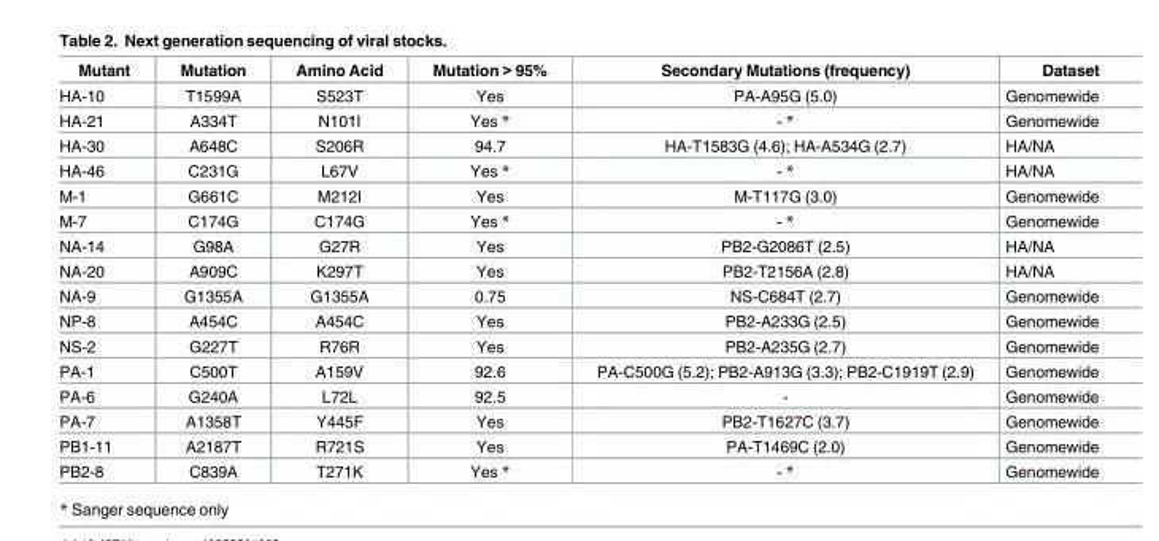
<table><thead><tr><td>Mutant</td><td>Mutation</td><td>Amino Acid</td><td>Mutation &gt; 95%</td><td>Secondary Mutations (frequency)</td><td>Dataset</td></tr></thead><tbody><tr><td>HA-10</td><td>T1599A</td><td>S523T</td><td>Yes</td><td>PA-A95G (5.0)</td><td>Genomewide</td></tr><tr><td>HA-21</td><td>A334T</td><td>N101I</td><td>Yes *</td><td>- *</td><td>Genomewide</td></tr><tr><td>HA-30</td><td>A648C</td><td>S206R</td><td>94.7</td><td>HA-T1583G (4.6); HA-A534G (2.7)</td><td>HA/NA</td></tr><tr><td>HA-46</td><td>C231G</td><td>L67V</td><td>Yes *</td><td>- *</td><td>HA/NA</td></tr><tr><td>M-1</td><td>G661C</td><td>M212I</td><td>Yes</td><td>M-T117G (3.0)</td><td>Genomewide</td></tr><tr><td>M-7</td><td>C174G</td><td>C174G</td><td>Yes *</td><td>- *</td><td>Genomewide</td></tr><tr><td>NA-14</td><td>G98A</td><td>G27R</td><td>Yes</td><td>PB2-G2086T (2.5)</td><td>HA/NA</td></tr><tr><td>NA-20</td><td>A909C</td><td>K297T</td><td>Yes</td><td>PB2-T2156A (2.8)</td><td>HA/NA</td></tr><tr><td>NA-9</td><td>G1355A</td><td>G1355A</td><td>0.75</td><td>NS-C684T (2.7)</td><td>Genomewide</td></tr><tr><td>NP-8</td><td>A454C</td><td>A454C</td><td>Yes</td><td>PB2-A233G (2.5)</td><td>Genomewide</td></tr><tr><td>NS-2</td><td>G227T</td><td>R76R</td><td>Yes</td><td>PB2-A235G (2.7)</td><td>Genomewide</td></tr><tr><td>PA-1</td><td>C500T</td><td>A159V</td><td>92.6</td><td>PA-C500G (5.2); PB2-A913G (3.3); PB2-C1919T (2.9)</td><td>Genomewide</td></tr><tr><td>PA-6</td><td>G240A</td><td>L72L</td><td>92.5</td><td>-</td><td>Genomewide</td></tr><tr><td>PA-7</td><td>A1358T</td><td>Y445F</td><td>Yes</td><td>PB2-T1627C (3.7)</td><td>Genomewide</td></tr><tr><td>PB1-11</td><td>A2187T</td><td>R721S</td><td>Yes</td><td>PA-T1469C (2.0)</td><td>Genomewide</td></tr><tr><td>PB2-8</td><td>C839A</td><td>T271K</td><td>Yes *</td><td>- *</td><td>Genomewide</td></tr></tbody></table>